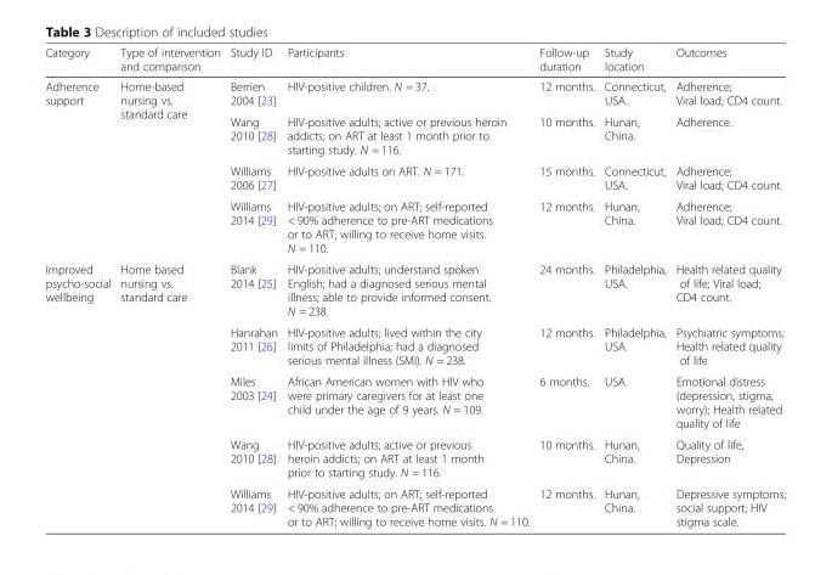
<table><thead><tr><td>Category</td><td>Type of intervention and comparison</td><td>Study ID</td><td>Participants</td><td>Follow-up duration</td><td>Study location</td><td>Outcomes</td></tr></thead><tbody><tr><td rowspan="4">Adherence support</td><td rowspan="4">Home-based nursing vs. standard care</td><td>Berrien 2004 [23]</td><td>HIV-positive children. N = 37.</td><td>12 months.</td><td>Connecticut, USA.</td><td>Adherence; Viral load; CD4 count.</td></tr><tr><td>Wang 2010 [28]</td><td>HIV-positive adults; active or previous heroin addicts; on ART at least 1 month prior to starting study. N = 116.</td><td>10 months.</td><td>Hunan, China.</td><td>Adherence.</td></tr><tr><td>Williams 2006 [27]</td><td>HIV-positive adults on ART. N = 171.</td><td>15 months.</td><td>Connecticut, USA.</td><td>Adherence; Viral load; CD4 count.</td></tr><tr><td>Williams 2014 [29]</td><td>HIV-positive adults; on ART; self-reported &lt; 90% adherence to pre-ART medications or to ART; willing to receive home visits. N = 110.</td><td>12 months.</td><td>Hunan, China.</td><td>Adherence; Viral load; CD4 count.</td></tr><tr><td rowspan="5">Improved psycho-social wellbeing</td><td rowspan="5">Home based nursing vs. standard care</td><td>Blank 2014 [25]</td><td>HIV-positive adults; understand spoken English; had a diagnosed serious mental illness; able to provide informed consent. N = 238.</td><td>24 months.</td><td>Philadelphia, USA.</td><td>Health related quality of life; Viral load; CD4 count.</td></tr><tr><td>Hanrahan 2011 [26]</td><td>HIV-positive adults; lived within the city limits of Philadelphia; had a diagnosed serious mental illness (SMI). N = 238.</td><td>12 months.</td><td>Philadelphia, USA.</td><td>Psychiatric symptoms; Health related quality of life</td></tr><tr><td>Miles 2003 [24]</td><td>African American women with HIV who were primary caregivers for at least one child under the age of 9 years. N = 109.</td><td>6 months.</td><td>USA.</td><td>Emotional distress (depression, stigma, worry); Health related quality of life</td></tr><tr><td>Wang 2010 [28]</td><td>HIV-positive adults; active or previous heroin addicts; on ART at least 1 month prior to starting study. N = 116.</td><td>10 months.</td><td>Hunan, China.</td><td>Quality of life, Depression</td></tr><tr><td>Williams 2014 [29]</td><td>HIV-positive adults; on ART; self-reported &lt; 90% adherence to pre-ART medications or to ART; willing to receive home visits. N = 110.</td><td>12 months.</td><td>Hunan, China.</td><td>Depressive symptoms; social support; HIV stigma scale.</td></tr></tbody></table>